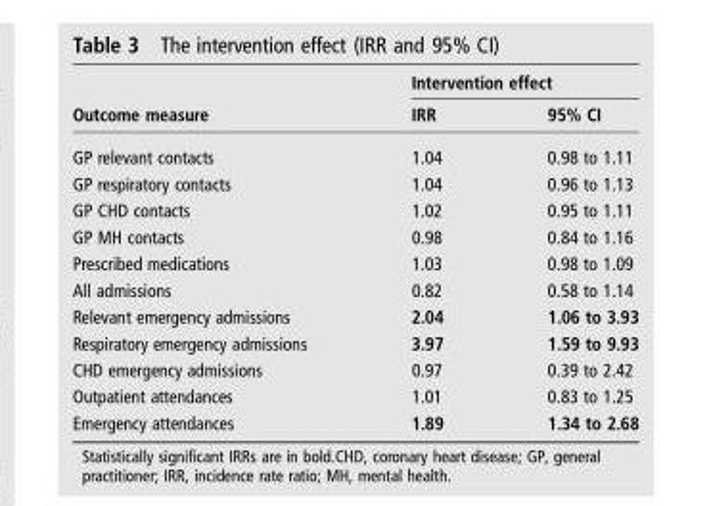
<table><thead><tr><td rowspan="2">Outcome measure</td><td colspan="2">Intervention effect</td></tr><tr><td>IRR</td><td>95% CI</td></tr></thead><tbody><tr><td>GP relevant contacts</td><td>1.04</td><td>0.98 to 1.11</td></tr><tr><td>GP respiratory contacts</td><td>1.04</td><td>0.96 to 1.13</td></tr><tr><td>GP CHD contacts</td><td>1.02</td><td>0.95 to 1.11</td></tr><tr><td>GP MH contacts</td><td>0.98</td><td>0.84 to 1.16</td></tr><tr><td>Prescribed medications</td><td>1.03</td><td>0.98 to 1.09</td></tr><tr><td>All admissions</td><td>0.82</td><td>0.58 to 1.14</td></tr><tr><td>Relevant emergency admissions</td><td>2.04</td><td>1.06 to 3.93</td></tr><tr><td>Respiratory emergency admissions</td><td>3.97</td><td>1.59 to 9.93</td></tr><tr><td>CHD emergency admissions</td><td>0.97</td><td>0.39 to 2.42</td></tr><tr><td>Outpatient attendances</td><td>1.01</td><td>0.83 to 1.25</td></tr><tr><td>Emergency attendances</td><td>1.89</td><td>1.34 to 2.68</td></tr></tbody></table>